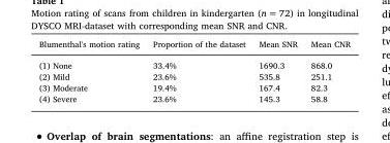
<table><thead><tr><td>Blumenthal&#x27;s motion rating</td><td>Proportion of the dataset</td><td>Mean SNR</td><td>Mean CNR</td></tr></thead><tbody><tr><td>(1) None</td><td>33.4%</td><td>1690.3</td><td>868.0</td></tr><tr><td>(2) Mild</td><td>23.6%</td><td>535.8</td><td>251.1</td></tr><tr><td>(3) Moderate</td><td>19.4%</td><td>167.4</td><td>82.3</td></tr><tr><td>(4) Severe</td><td>23.6%</td><td>145.3</td><td>58.8</td></tr></tbody></table>